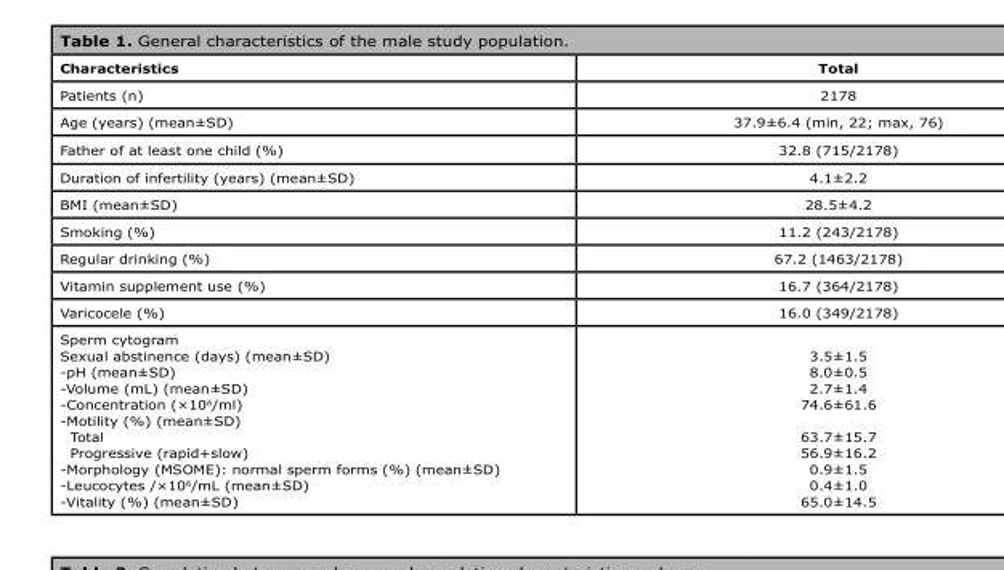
<table><thead><tr><td>Characteristics</td><td>Total</td></tr></thead><tbody><tr><td>Patients (n)</td><td>2178</td></tr><tr><td>Age (years) (mean±SD)</td><td>37.9±6.4 (min, 22; max, 76)</td></tr><tr><td>Father of at least one child (%)</td><td>32.8 (715/2178)</td></tr><tr><td>Duration of infertility (years) (mean±SD)</td><td>4.1±2.2</td></tr><tr><td>BMI (mean±SD)</td><td>28.5±4.2</td></tr><tr><td>Smoking (%)</td><td>11.2 (243/2178)</td></tr><tr><td>Regular drinking (%)</td><td>67.2 (1463/2178)</td></tr><tr><td>Vitamin supplement use (%)</td><td>16.7 (364/2178)</td></tr><tr><td>Varicocele (%)</td><td>16.0 (349/2178)</td></tr><tr><td>Sperm cytogram Sexual abstinence (days) (mean±SD) -pH (mean±SD) -Volume (mL) (mean±SD) -Concentration (×10<sup>6</sup>/ml) -Motility (%) (mean±SD) Total Progressive (rapid+slow) -Morphology (MSOME): normal sperm forms (%) (mean±SD) -Leucocytes /×10<sup>6</sup>/mL (mean±SD) -Vitality (%) (mean±SD)</td><td>3.5±1.5 8.0±0.5 2.7±1.4 74.6±61.6 63.7±15.7 56.9±16.2 0.9±1.5 0.4±1.0 65.0±14.5</td></tr></tbody></table>